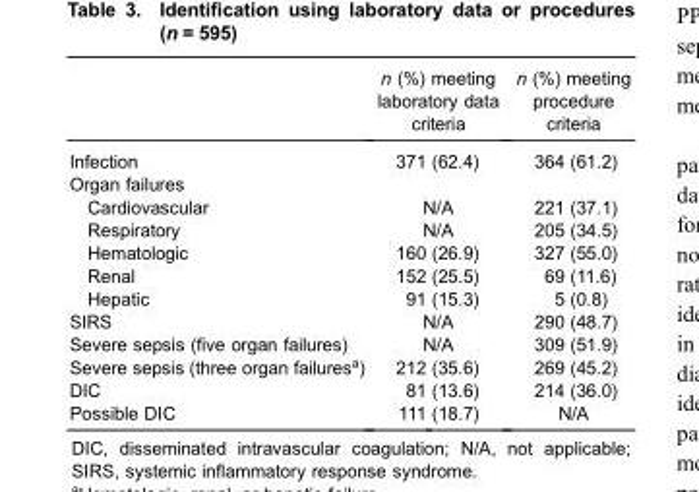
<table><thead><tr><td rowspan="2">Infection</td><td colspan="2">n (%) meeting laboratory data criteria</td><td colspan="2">n (%) meeting procedure criteria</td></tr><tr><td>371</td><td>(62.4)</td><td>364</td><td>(61.2)</td></tr></thead><tbody><tr><td colspan="5">Organ failures</td></tr><tr><td>Cardiovascular</td><td colspan="2">N/A</td><td>221</td><td>(37.1)</td></tr><tr><td>Respiratory</td><td colspan="2">N/A</td><td>205</td><td>(34.5)</td></tr><tr><td>Hematologic</td><td>160</td><td>(26.9)</td><td>327</td><td>(55.0)</td></tr><tr><td>Renal</td><td>152</td><td>(25.5)</td><td>69</td><td>(11.6)</td></tr><tr><td>Hepatic</td><td>91</td><td>(15.3)</td><td>5</td><td>(0.8)</td></tr><tr><td>SIRS</td><td colspan="2">N/A</td><td>290</td><td>(48.7)</td></tr><tr><td>Severe sepsis (five organ failures)</td><td colspan="2">N/A</td><td>309</td><td>(51.9)</td></tr><tr><td>Severe sepsis (three organ failures<sup>a</sup>)</td><td>212</td><td>(35.6)</td><td>269</td><td>(45.2)</td></tr><tr><td>DIC</td><td>81</td><td>(13.6)</td><td>214</td><td>(36.0)</td></tr><tr><td>Possible DIC</td><td>111</td><td>(18.7)</td><td colspan="2">N/A</td></tr></tbody></table>